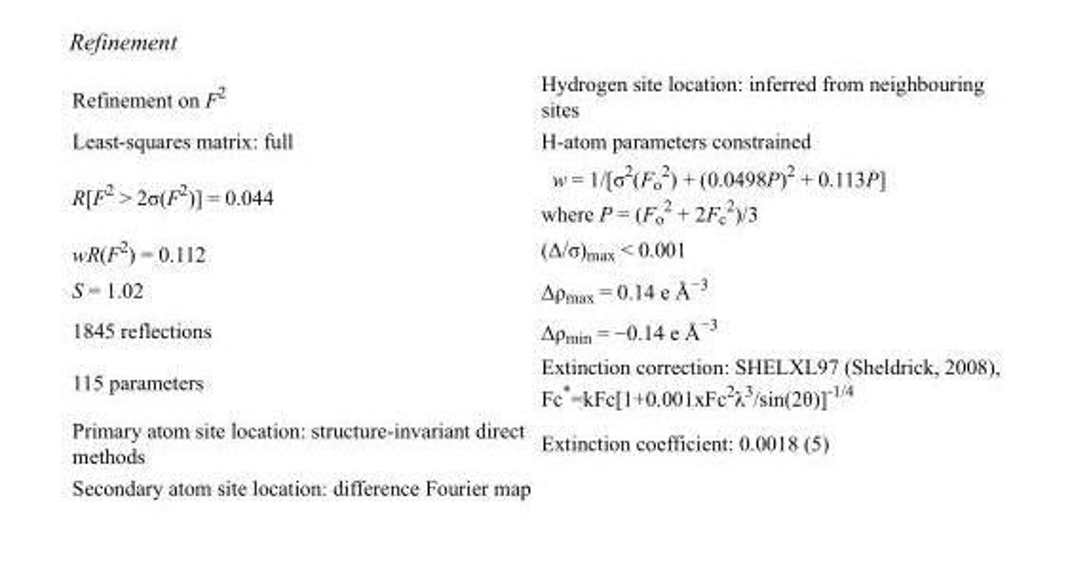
<table><tbody><tr><td>Refinement on F<sup>2</sup></td><td>Hydrogen site location: inferred from neighbouring sites</td></tr><tr><td>Least-squares matrix: full</td><td>H-atom parameters constrained</td></tr><tr><td>R[F<sup>2</sup> &gt; 2σ(F<sup>2</sup>)] = 0.044</td><td>w = 1/[σ<sup>2</sup>(F<sub>o</sub> <sup>2</sup>) + (0.0498P)<sup>2</sup> + 0.113P] where P = (F<sub>o</sub> <sup>2</sup> + 2F<sub>c</sub> <sup>2</sup>)/3</td></tr><tr><td>wR(F<sup>2</sup>) = 0.112</td><td>(Δ/σ)<sub>max</sub> &lt; 0.001</td></tr><tr><td>S = 1.02</td><td>Δρ<sub>max</sub> = 0.14 e Å<sup>−3</sup></td></tr><tr><td>1845 reflections</td><td>Δρ<sub>min</sub> = −0.14 e Å<sup>−3</sup></td></tr><tr><td>115 parameters</td><td>Extinction correction: SHELXL97 (Sheldrick, 2008), Fc*=kFc[1+0.001xFc<sup>2</sup>λ<sup>3</sup>/sin(2θ)]<sup>-1/4</sup></td></tr><tr><td>Primary atom site location: structure-invariant direct methods</td><td>Extinction coefficient: 0.0018 (5)</td></tr><tr><td>Secondary atom site location: difference Fourier map</td><td></td></tr></tbody></table>